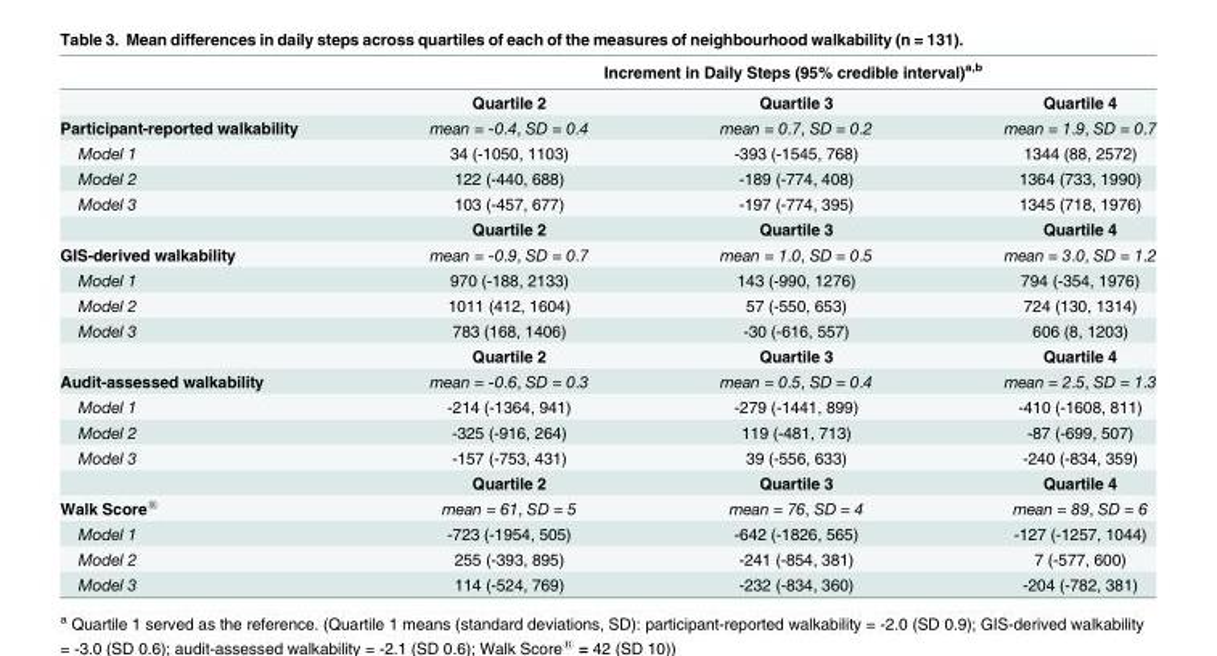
<table><thead><tr><td rowspan="2"></td><td colspan="3">Increment in Daily Steps (95% credible interval)<sup>a,b</sup></td></tr><tr><td>Quartile 2</td><td>Quartile 3</td><td>Quartile 4</td></tr></thead><tbody><tr><td>Participant-reported walkability</td><td>mean = -0.4, SD = 0.4</td><td>mean = 0.7, SD = 0.2</td><td>mean = 1.9, SD = 0.7</td></tr><tr><td>Model 1</td><td>34 (-1050, 1103)</td><td>-393 (-1545, 768)</td><td>1344 (88, 2572)</td></tr><tr><td>Model 2</td><td>122 (-440, 688)</td><td>-189 (-774, 408)</td><td>1364 (733, 1990)</td></tr><tr><td rowspan="2">Model 3</td><td>103 (-457, 677)</td><td>-197 (-774, 395)</td><td>1345 (718, 1976)</td></tr><tr><td>Quartile 2</td><td>Quartile 3</td><td>Quartile 4</td></tr><tr><td>GIS-derived walkability</td><td>mean = -0.9, SD = 0.7</td><td>mean = 1.0, SD = 0.5</td><td>mean = 3.0, SD = 1.2</td></tr><tr><td>Model 1</td><td>970 (-188, 2133)</td><td>143 (-990, 1276)</td><td>794 (-354, 1976)</td></tr><tr><td>Model 2</td><td>1011 (412, 1604)</td><td>57 (-550, 653)</td><td>724 (130, 1314)</td></tr><tr><td rowspan="2">Model 3</td><td>783 (168, 1406)</td><td>-30 (-616, 557)</td><td>606 (8, 1203)</td></tr><tr><td>Quartile 2</td><td>Quartile 3</td><td>Quartile 4</td></tr><tr><td>Audit-assessed walkability</td><td>mean = -0.6, SD = 0.3</td><td>mean = 0.5, SD = 0.4</td><td>mean = 2.5, SD = 1.3</td></tr><tr><td>Model 1</td><td>-214 (-1364, 941)</td><td>-279 (-1441, 899)</td><td>-410 (-1608, 811)</td></tr><tr><td>Model 2</td><td>-325 (-916, 264)</td><td>119 (-481, 713)</td><td>-87 (-699, 507)</td></tr><tr><td rowspan="2">Model 3</td><td>-157 (-753, 431)</td><td>39 (-556, 633)</td><td>-240 (-834, 359)</td></tr><tr><td>Quartile 2</td><td>Quartile 3</td><td>Quartile 4</td></tr><tr><td>Walk Score<sup>®</sup></td><td>mean = 61, SD = 5</td><td>mean = 76, SD = 4</td><td>mean = 89, SD = 6</td></tr><tr><td>Model 1</td><td>-723 (-1954, 505)</td><td>-642 (-1826, 565)</td><td>-127 (-1257, 1044)</td></tr><tr><td>Model 2</td><td>255 (-393, 895)</td><td>-241 (-854, 381)</td><td>7 (-577, 600)</td></tr><tr><td>Model 3</td><td>114 (-524, 769)</td><td>-232 (-834, 360)</td><td>-204 (-782, 381)</td></tr></tbody></table>